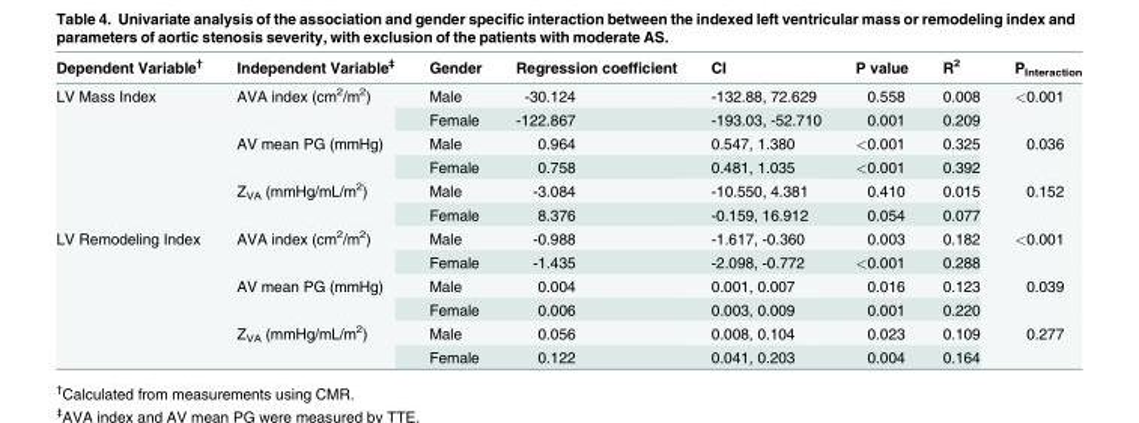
<table><thead><tr><td>Dependent Variable<sup>†</sup></td><td>Independent Variable<sup>‡</sup></td><td>Gender</td><td>Regression coefficient</td><td>CI</td><td>P value</td><td>R<sup>2</sup></td><td>P<sub>Interaction</sub></td></tr></thead><tbody><tr><td rowspan="6">LV Mass Index</td><td rowspan="2">AVA index (cm<sup>2</sup>/m<sup>2</sup>)</td><td>Male</td><td>-30.124</td><td>-132.88, 72.629</td><td>0.558</td><td>0.008</td><td rowspan="2">&lt;0.001</td></tr><tr><td>Female</td><td>-122.867</td><td>-193.03, -52.710</td><td>0.001</td><td>0.209</td></tr><tr><td rowspan="2">AV mean PG (mmHg)</td><td>Male</td><td>0.964</td><td>0.547, 1.380</td><td>&lt;0.001</td><td>0.325</td><td rowspan="2">0.036</td></tr><tr><td>Female</td><td>0.758</td><td>0.481, 1.035</td><td>&lt;0.001</td><td>0.392</td></tr><tr><td rowspan="2">Z<sub>VA</sub> (mmHg/mL/m<sup>2</sup>)</td><td>Male</td><td>-3.084</td><td>-10.550, 4.381</td><td>0.410</td><td>0.015</td><td rowspan="2">0.152</td></tr><tr><td>Female</td><td>8.376</td><td>-0.159, 16.912</td><td>0.054</td><td>0.077</td></tr><tr><td rowspan="6">LV Remodeling Index</td><td rowspan="2">AVA index (cm<sup>2</sup>/m<sup>2</sup>)</td><td>Male</td><td>-0.988</td><td>-1.617, -0.360</td><td>0.003</td><td>0.182</td><td rowspan="2">&lt;0.001</td></tr><tr><td>Female</td><td>-1.435</td><td>-2.098, -0.772</td><td>&lt;0.001</td><td>0.288</td></tr><tr><td rowspan="2">AV mean PG (mmHg)</td><td>Male</td><td>0.004</td><td>0.001, 0.007</td><td>0.016</td><td>0.123</td><td rowspan="2">0.039</td></tr><tr><td>Female</td><td>0.006</td><td>0.003, 0.009</td><td>0.001</td><td>0.220</td></tr><tr><td rowspan="2">Z<sub>VA</sub> (mmHg/mL/m<sup>2</sup>)</td><td>Male</td><td>0.056</td><td>0.008, 0.104</td><td>0.023</td><td>0.109</td><td rowspan="2">0.277</td></tr><tr><td>Female</td><td>0.122</td><td>0.041, 0.203</td><td>0.004</td><td>0.164</td></tr></tbody></table>